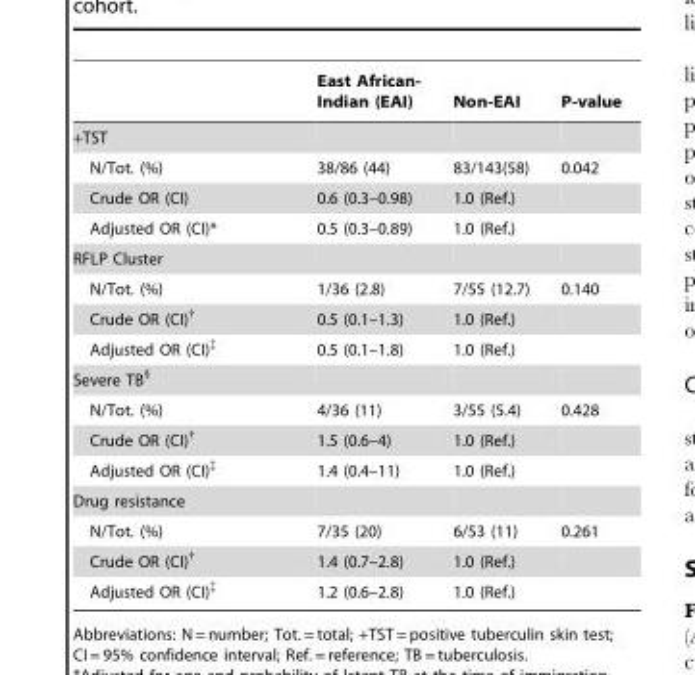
<table><thead><tr><td></td><td>East African- Indian (EAI)</td><td>Non-EAI</td><td>P-value</td></tr></thead><tbody><tr><td colspan="4">+TST</td></tr><tr><td>N/Tot. (%)</td><td>38/86 (44)</td><td>83/143(58)</td><td>0.042</td></tr><tr><td>Crude OR (CI)</td><td>0.6 (0.3–0.98)</td><td>1.0 (Ref.)</td><td></td></tr><tr><td>Adjusted OR (CI)*</td><td>0.5 (0.3–0.89)</td><td>1.0 (Ref.)</td><td></td></tr><tr><td colspan="4">RFLP Cluster</td></tr><tr><td>N/Tot. (%)</td><td>1/36 (2.8)</td><td>7/55 (12.7)</td><td>0.140</td></tr><tr><td>Crude OR (CI)†</td><td>0.5 (0.1–1.3)</td><td>1.0 (Ref.)</td><td></td></tr><tr><td>Adjusted OR (CI)‡</td><td>0.5 (0.1–1.8)</td><td>1.0 (Ref.)</td><td></td></tr><tr><td colspan="4">Severe TB§</td></tr><tr><td>N/Tot. (%)</td><td>4/36 (11)</td><td>3/55 (5.4)</td><td>0.428</td></tr><tr><td>Crude OR (CI)†</td><td>1.5 (0.6–4)</td><td>1.0 (Ref.)</td><td></td></tr><tr><td>Adjusted OR (CI)‡</td><td>1.4 (0.4–11)</td><td>1.0 (Ref.)</td><td></td></tr><tr><td colspan="4">Drug resistance</td></tr><tr><td>N/Tot. (%)</td><td>7/35 (20)</td><td>6/53 (11)</td><td>0.261</td></tr><tr><td>Crude OR (CI)†</td><td>1.4 (0.7–2.8)</td><td>1.0 (Ref.)</td><td></td></tr><tr><td>Adjusted OR (CI)‡</td><td>1.2 (0.6–2.8)</td><td>1.0 (Ref.)</td><td></td></tr></tbody></table>